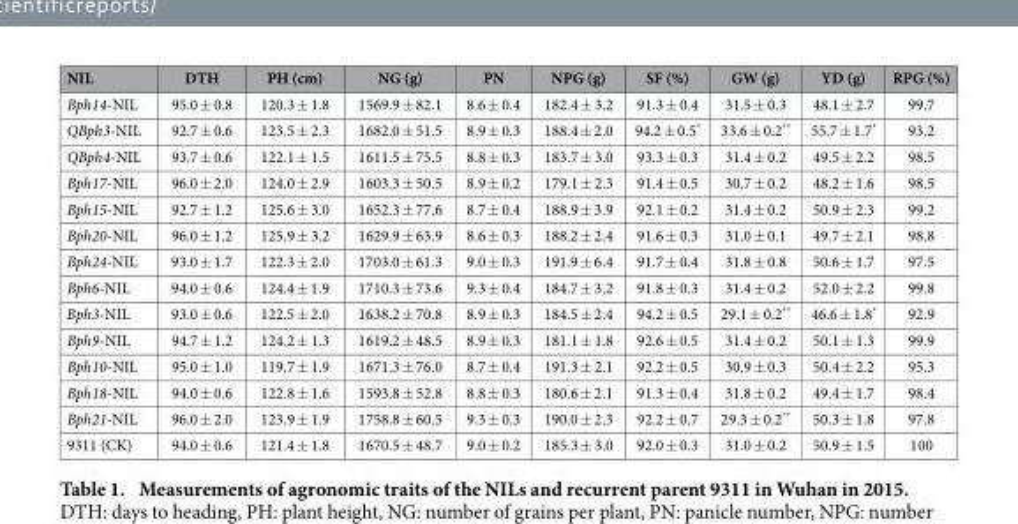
<table><thead><tr><td>NIL</td><td>DTH</td><td>PH (cm)</td><td>NG (g)</td><td>PN</td><td>NPG (g)</td><td>SF (%)</td><td>GW (g)</td><td>YD (g)</td><td>RPG (%)</td></tr></thead><tbody><tr><td>Bph14-NIL</td><td>95.0 ± 0.8</td><td>120.3 ± 1.8</td><td>1569.9 ± 82.1</td><td>8.6 ± 0.4</td><td>182.4 ± 3.2</td><td>91.3 ± 0.4</td><td>31.5 ± 0.3</td><td>48.1 ± 2.7</td><td>99.7</td></tr><tr><td>QBph3-NIL</td><td>92.7 ± 0.6</td><td>123.5 ± 2.3</td><td>1682.0 ± 51.5</td><td>8.9 ± 0.3</td><td>188.4 ± 2.0</td><td>94.2 ± 0.5*</td><td>33.6 ± 0.2**</td><td>55.7 ± 1.7*</td><td>93.2</td></tr><tr><td>QBph4-NIL</td><td>93.7 ± 0.6</td><td>122.1 ± 1.5</td><td>1611.5 ± 75.5</td><td>8.8 ± 0.3</td><td>183.7 ± 3.0</td><td>93.3 ± 0.3</td><td>31.4 ± 0.2</td><td>49.5 ± 2.2</td><td>98.5</td></tr><tr><td>Bph17-NIL</td><td>96.0 ± 2.0</td><td>124.0 ± 2.9</td><td>1603.3 ± 50.5</td><td>8.9 ± 0.2</td><td>179.1 ± 2.3</td><td>91.4 ± 0.5</td><td>30.7 ± 0.2</td><td>48.2 ± 1.6</td><td>98.5</td></tr><tr><td>Bph15-NIL</td><td>92.7 ± 1.2</td><td>125.6 ± 3.0</td><td>1652.3 ± 77.6</td><td>8.7 ± 0.4</td><td>188.9 ± 3.9</td><td>92.1 ± 0.2</td><td>31.4 ± 0.2</td><td>50.9 ± 2.3</td><td>99.2</td></tr><tr><td>Bph20-NIL</td><td>96.0 ± 1.2</td><td>125.9 ± 3.2</td><td>1629.9 ± 63.9</td><td>8.6 ± 0.3</td><td>188.2 ± 2.4</td><td>91.6 ± 0.3</td><td>31.0 ± 0.1</td><td>49.7 ± 2.1</td><td>98.8</td></tr><tr><td>Bph24-NIL</td><td>93.0 ± 1.7</td><td>122.3 ± 2.0</td><td>1703.0 ± 61.3</td><td>9.0 ± 0.3</td><td>191.9 ± 6.4</td><td>91.7 ± 0.4</td><td>31.8 ± 0.8</td><td>50.6 ± 1.7</td><td>97.5</td></tr><tr><td>Bph6-NIL</td><td>94.0 ± 0.6</td><td>124.4 ± 1.9</td><td>1710.3 ± 73.6</td><td>9.3 ± 0.4</td><td>184.7 ± 3.2</td><td>91.8 ± 0.3</td><td>31.4 ± 0.2</td><td>52.0 ± 2.2</td><td>99.8</td></tr><tr><td>Bph3-NIL</td><td>93.0 ± 0.6</td><td>122.5 ± 2.0</td><td>1638.2 ± 70.8</td><td>8.9 ± 0.3</td><td>184.5 ± 2.4</td><td>94.2 ± 0.5</td><td>29.1 ± 0.2**</td><td>46.6 ± 1.8*</td><td>92.9</td></tr><tr><td>Bph9-NIL</td><td>94.7 ± 1.2</td><td>124.2 ± 1.3</td><td>1619.2 ± 48.5</td><td>8.9 ± 0.3</td><td>181.1 ± 1.8</td><td>92.6 ± 0.5</td><td>31.4 ± 0.2</td><td>50.1 ± 1.3</td><td>99.9</td></tr><tr><td>Bph10-NIL</td><td>95.0 ± 1.0</td><td>119.7 ± 1.9</td><td>1671.3 ± 76.0</td><td>8.7 ± 0.4</td><td>191.3 ± 2.1</td><td>92.2 ± 0.5</td><td>30.9 ± 0.3</td><td>50.4 ± 2.2</td><td>95.3</td></tr><tr><td>Bph18-NIL</td><td>94.0 ± 0.6</td><td>122.8 ± 1.6</td><td>1593.8 ± 52.8</td><td>8.8 ± 0.3</td><td>180.6 ± 2.1</td><td>91.3 ± 0.4</td><td>31.8 ± 0.2</td><td>49.4 ± 1.7</td><td>98.4</td></tr><tr><td>Bph21-NIL</td><td>96.0 ± 2.0</td><td>123.9 ± 1.9</td><td>1758.8 ± 60.5</td><td>9.3 ± 0.3</td><td>190.0 ± 2.3</td><td>92.2 ± 0.7</td><td>29.3 ± 0.2**</td><td>50.3 ± 1.8</td><td>97.8</td></tr><tr><td>9311 (CK)</td><td>94.0 ± 0.6</td><td>121.4 ± 1.8</td><td>1670.5 ± 48.7</td><td>9.0 ± 0.2</td><td>185.3 ± 3.0</td><td>92.0 ± 0.3</td><td>31.0 ± 0.2</td><td>50.9 ± 1.5</td><td>100</td></tr></tbody></table>